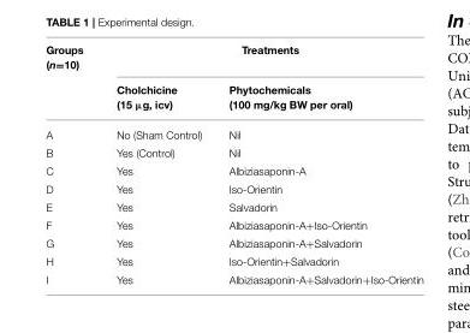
<table><thead><tr><td rowspan="2">Groups (n=10)</td><td colspan="2">Treatments</td></tr><tr><td>Cholchicine (15 µg, icv)</td><td>Phytochemicals (100 mg/kg BW per oral)</td></tr></thead><tbody><tr><td>A</td><td>No (Sham Control)</td><td>Nil</td></tr><tr><td>B</td><td>Yes (Control)</td><td>Nil</td></tr><tr><td>C</td><td>Yes</td><td>Albiziasaponin-A</td></tr><tr><td>D</td><td>Yes</td><td>Iso-Orientin</td></tr><tr><td>E</td><td>Yes</td><td>Salvadorin</td></tr><tr><td>F</td><td>Yes</td><td>Albiziasaponin-A+Iso-Orientin</td></tr><tr><td>G</td><td>Yes</td><td>Albiziasaponin-A+Salvadorin</td></tr><tr><td>H</td><td>Yes</td><td>Iso-Orientin+Salvadorin</td></tr><tr><td>I</td><td>Yes</td><td>Albiziasaponin-A+Salvadorin+Iso-Orientin</td></tr></tbody></table>